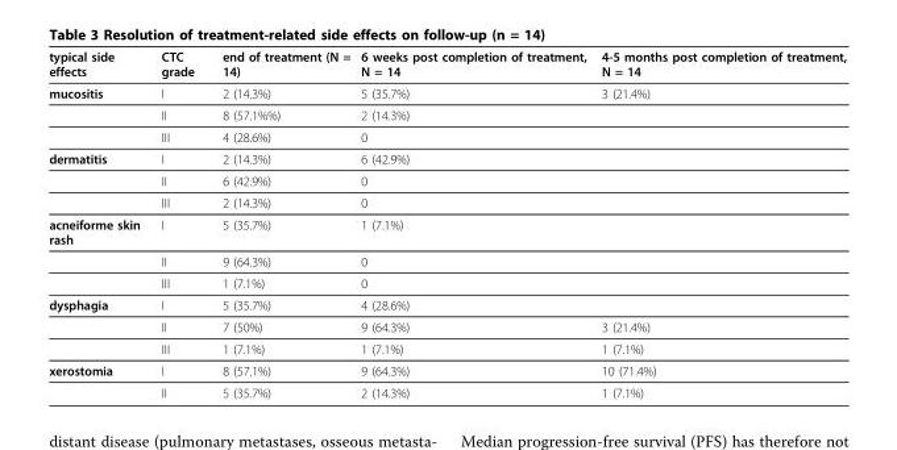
<table><thead><tr><td>typical side effects</td><td>CTC grade</td><td>end of treatment (N = 14)</td><td>6 weeks post completion of treatment, N = 14</td><td>4-5 months post completion of treatment, N = 14</td></tr></thead><tbody><tr><td rowspan="3">mucositis</td><td>I</td><td>2 (14.3%)</td><td>5 (35.7%)</td><td>3 (21.4%)</td></tr><tr><td>II</td><td>8 (57.1%%)</td><td>2 (14.3%)</td><td></td></tr><tr><td>III</td><td>4 (28.6%)</td><td>0</td><td></td></tr><tr><td rowspan="3">dermatitis</td><td>I</td><td>2 (14.3%)</td><td>6 (42.9%)</td><td></td></tr><tr><td>II</td><td>6 (42.9%)</td><td>0</td><td></td></tr><tr><td>III</td><td>2 (14.3%)</td><td>0</td><td></td></tr><tr><td rowspan="3">acneiforme skin rash</td><td>I</td><td>5 (35.7%)</td><td>1 (7.1%)</td><td></td></tr><tr><td>II</td><td>9 (64.3%)</td><td>0</td><td></td></tr><tr><td>III</td><td>1 (7.1%)</td><td>0</td><td></td></tr><tr><td rowspan="3">dysphagia</td><td>I</td><td>5 (35.7%)</td><td>4 (28.6%)</td><td></td></tr><tr><td>II</td><td>7 (50%)</td><td>9 (64.3%)</td><td>3 (21.4%)</td></tr><tr><td>III</td><td>1 (7.1%)</td><td>1 (7.1%)</td><td>1 (7.1%)</td></tr><tr><td rowspan="2">xerostomia</td><td>I</td><td>8 (57.1%)</td><td>9 (64.3%)</td><td>10 (71.4%)</td></tr><tr><td>II</td><td>5 (35.7%)</td><td>2 (14.3%)</td><td>1 (7.1%)</td></tr></tbody></table>